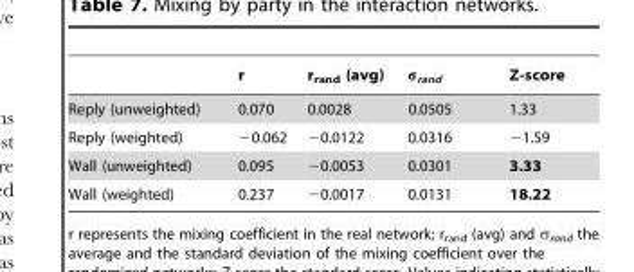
<table><thead><tr><td></td><td>r</td><td>r<sub>rand</sub> (avg)</td><td>σ<sub>rand</sub></td><td>Z-score</td></tr></thead><tbody><tr><td>Reply (unweighted)</td><td>0.070</td><td>0.0028</td><td>0.0505</td><td>1.33</td></tr><tr><td>Reply (weighted)</td><td>−0.062</td><td>−0.0122</td><td>0.0316</td><td>−1.59</td></tr><tr><td>Wall (unweighted)</td><td>0.095</td><td>−0.0053</td><td>0.0301</td><td>3.33</td></tr><tr><td>Wall (weighted)</td><td>0.237</td><td>−0.0017</td><td>0.0131</td><td>18.22</td></tr></tbody></table>